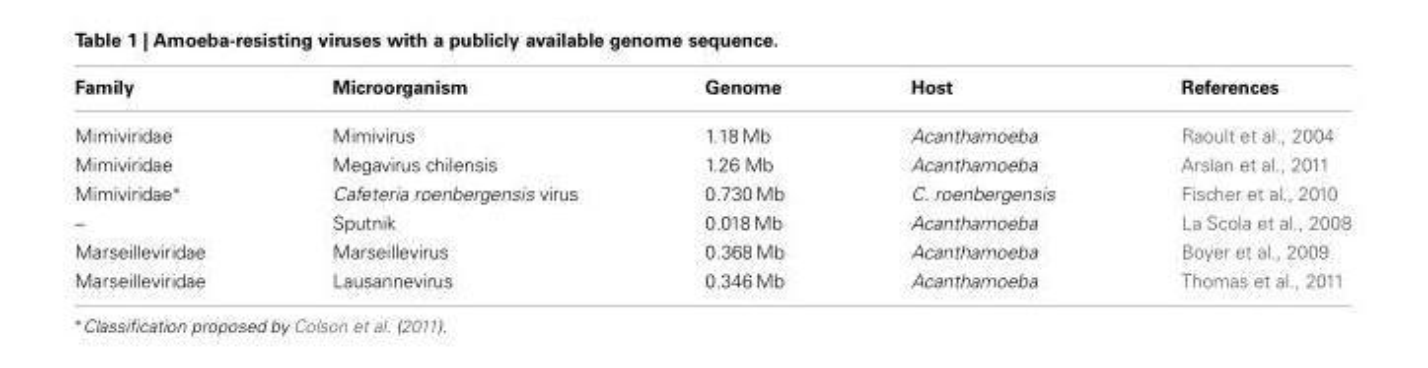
<table><thead><tr><td>Family</td><td>Microorganism</td><td>Genome</td><td>Host</td><td>References</td></tr></thead><tbody><tr><td>Mimiviridae</td><td>Mimivirus</td><td>1.18 Mb</td><td>Acanthamoeba</td><td>Raoult et al., 2004</td></tr><tr><td>Mimiviridae</td><td>Megavirus chilensis</td><td>1.26 Mb</td><td>Acanthamoeba</td><td>Arslan et al., 2011</td></tr><tr><td>Mimiviridae∗</td><td>Cafeteria roenbergensis virus</td><td>0.730 Mb</td><td>C. roenbergensis</td><td>Fischer et al., 2010</td></tr><tr><td>–</td><td>Sputnik</td><td>0.018 Mb</td><td>Acanthamoeba</td><td>La Scola et al., 2008</td></tr><tr><td>Marseilleviridae</td><td>Marseillevirus</td><td>0.368 Mb</td><td>Acanthamoeba</td><td>Boyer et al., 2009</td></tr><tr><td>Marseilleviridae</td><td>Lausannevirus</td><td>0.346 Mb</td><td>Acanthamoeba</td><td>Thomas et al., 2011</td></tr></tbody></table>